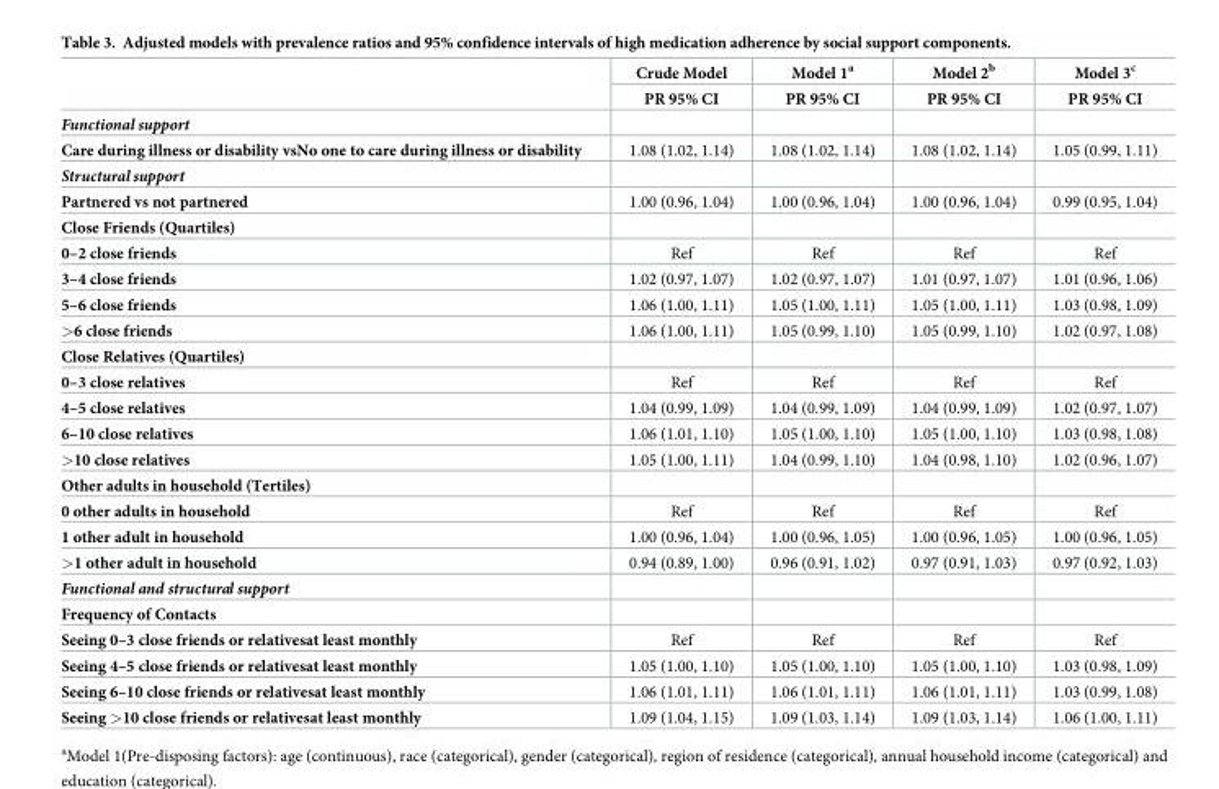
<table><thead><tr><td rowspan="2"></td><td rowspan="2">Crude Model PR 95% CI</td><td rowspan="2">Model 1<sup>a</sup> PR 95% CI</td><td rowspan="2">Model 2<sup>b</sup> PR 95% CI</td><td rowspan="2">Model 3<sup>c</sup> PR 95% CI</td></tr><tr></tr></thead><tbody><tr><td colspan="5">Functional support</td></tr><tr><td>Care during illness or disability vsNo one to care during illness or disability</td><td>1.08 (1.02, 1.14)</td><td>1.08 (1.02, 1.14)</td><td>1.08 (1.02, 1.14)</td><td>1.05 (0.99, 1.11)</td></tr><tr><td colspan="5">Structural support</td></tr><tr><td>Partnered vs not partnered</td><td>1.00 (0.96, 1.04)</td><td>1.00 (0.96, 1.04)</td><td>1.00 (0.96, 1.04)</td><td>0.99 (0.95, 1.04)</td></tr><tr><td colspan="5">Close Friends (Quartiles)</td></tr><tr><td>0–2 close friends</td><td>Ref</td><td>Ref</td><td>Ref</td><td>Ref</td></tr><tr><td>3–4 close friends</td><td>1.02 (0.97, 1.07)</td><td>1.02 (0.97, 1.07)</td><td>1.01 (0.97, 1.07)</td><td>1.01 (0.96, 1.06)</td></tr><tr><td>5–6 close friends</td><td>1.06 (1.00, 1.11)</td><td>1.05 (1.00, 1.11)</td><td>1.05 (1.00, 1.11)</td><td>1.03 (0.98, 1.09)</td></tr><tr><td>&gt;6 close friends</td><td>1.06 (1.00, 1.11)</td><td>1.05 (0.99, 1.10)</td><td>1.05 (0.99, 1.10)</td><td>1.02 (0.97, 1.08)</td></tr><tr><td colspan="5">Close Relatives (Quartiles)</td></tr><tr><td>0–3 close relatives</td><td>Ref</td><td>Ref</td><td>Ref</td><td>Ref</td></tr><tr><td>4–5 close relatives</td><td>1.04 (0.99, 1.09)</td><td>1.04 (0.99, 1.09)</td><td>1.04 (0.99, 1.09)</td><td>1.02 (0.97, 1.07)</td></tr><tr><td>6–10 close relatives</td><td>1.06 (1.01, 1.10)</td><td>1.05 (1.00, 1.10)</td><td>1.05 (1.00, 1.10)</td><td>1.03 (0.98, 1.08)</td></tr><tr><td>&gt;10 close relatives</td><td>1.05 (1.00, 1.11)</td><td>1.04 (0.99, 1.10)</td><td>1.04 (0.98, 1.10)</td><td>1.02 (0.96, 1.07)</td></tr><tr><td colspan="5">Other adults in household (Tertiles)</td></tr><tr><td>0 other adults in household</td><td>Ref</td><td>Ref</td><td>Ref</td><td>Ref</td></tr><tr><td>1 other adult in household</td><td>1.00 (0.96, 1.04)</td><td>1.00 (0.96, 1.05)</td><td>1.00 (0.96, 1.05)</td><td>1.00 (0.96, 1.05)</td></tr><tr><td>&gt;1 other adult in household</td><td>0.94 (0.89, 1.00)</td><td>0.96 (0.91, 1.02)</td><td>0.97 (0.91, 1.03)</td><td>0.97 (0.92, 1.03)</td></tr><tr><td colspan="5">Functional and structural support</td></tr><tr><td colspan="5">Frequency of Contacts</td></tr><tr><td>Seeing 0–3 close friends or relativesat least monthly</td><td>Ref</td><td>Ref</td><td>Ref</td><td>Ref</td></tr><tr><td>Seeing 4–5 close friends or relativesat least monthly</td><td>1.05 (1.00, 1.10)</td><td>1.05 (1.00, 1.10)</td><td>1.05 (1.00, 1.10)</td><td>1.03 (0.98, 1.09)</td></tr><tr><td>Seeing 6–10 close friends or relativesat least monthly</td><td>1.06 (1.01, 1.11)</td><td>1.06 (1.01, 1.11)</td><td>1.06 (1.01, 1.11)</td><td>1.03 (0.99, 1.08)</td></tr><tr><td>Seeing &gt;10 close friends or relativesat least monthly</td><td>1.09 (1.04, 1.15)</td><td>1.09 (1.03, 1.14)</td><td>1.09 (1.03, 1.14)</td><td>1.06 (1.00, 1.11)</td></tr></tbody></table>